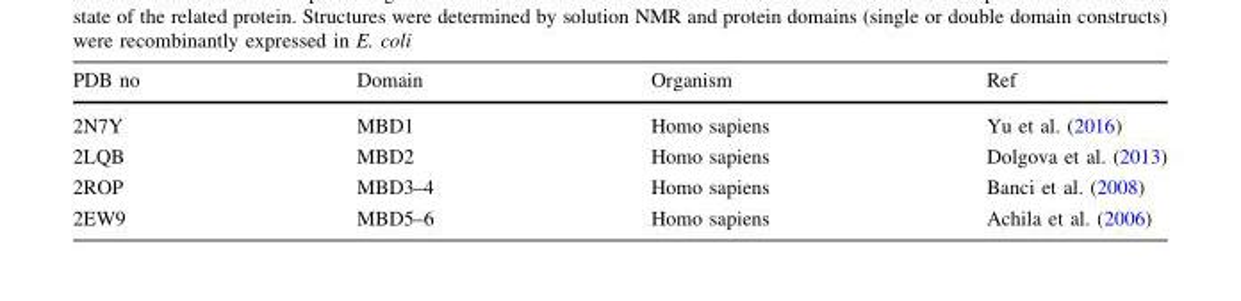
<table><thead><tr><td>PDB no</td><td>Domain</td><td>Organism</td><td>Ref</td></tr></thead><tbody><tr><td>2N7Y</td><td>MBD1</td><td>Homo sapiens</td><td>Yu et al. (2016)</td></tr><tr><td>2LQB</td><td>MBD2</td><td>Homo sapiens</td><td>Dolgova et al. (2013)</td></tr><tr><td>2ROP</td><td>MBD3–4</td><td>Homo sapiens</td><td>Banci et al. (2008)</td></tr><tr><td>2EW9</td><td>MBD5–6</td><td>Homo sapiens</td><td>Achila et al. (2006)</td></tr></tbody></table>